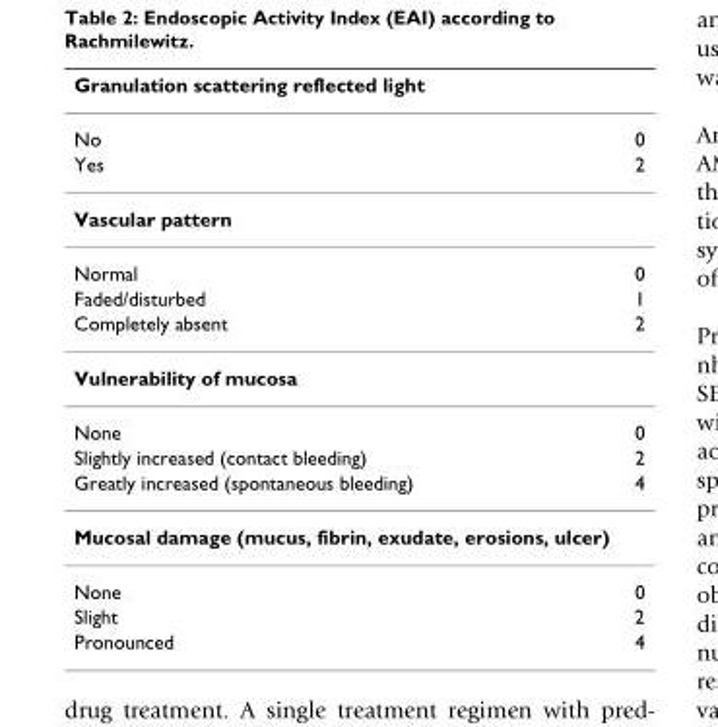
<table><thead><tr><td>Granulation scattering reflected light</td><td></td></tr></thead><tbody><tr><td>No</td><td>0</td></tr><tr><td>Yes</td><td>2</td></tr><tr><td colspan="2">Vascular pattern</td></tr><tr><td>Normal</td><td>0</td></tr><tr><td>Faded/disturbed</td><td>1</td></tr><tr><td>Completely absent</td><td>2</td></tr><tr><td colspan="2">Vulnerability of mucosa</td></tr><tr><td>None</td><td>0</td></tr><tr><td>Slightly increased (contact bleeding)</td><td>2</td></tr><tr><td>Greatly increased (spontaneous bleeding)</td><td>4</td></tr><tr><td colspan="2">Mucosal damage (mucus, fibrin, exudate, erosions, ulcer)</td></tr><tr><td>None</td><td>0</td></tr><tr><td>Slight</td><td>2</td></tr><tr><td>Pronounced</td><td>4</td></tr></tbody></table>